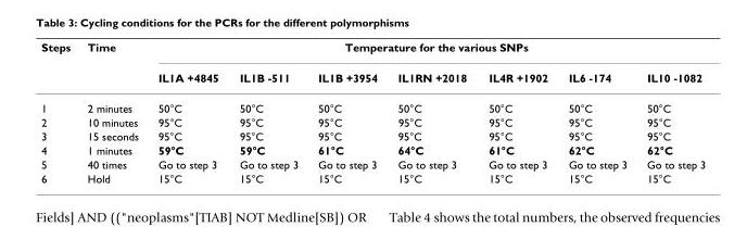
<table><thead><tr><td rowspan="2">Steps</td><td rowspan="2">Time</td><td colspan="7">Temperature for the various SNPs</td></tr><tr><td>IL1A +4845</td><td>IL1B -511</td><td>IL1B +3954</td><td>IL1RN +2018</td><td>IL4R +1902</td><td>IL6 -174</td><td>IL10 -1082</td></tr></thead><tbody><tr><td>1</td><td>2 minutes</td><td>50°C</td><td>50°C</td><td>50°C</td><td>50°C</td><td>50°C</td><td>50°C</td><td>50°C</td></tr><tr><td>2</td><td>10 minutes</td><td>95°C</td><td>95°C</td><td>95°C</td><td>95°C</td><td>95°C</td><td>95°C</td><td>95°C</td></tr><tr><td>3</td><td>15 seconds</td><td>95°C</td><td>95°C</td><td>95°C</td><td>95°C</td><td>95°C</td><td>95°C</td><td>95°C</td></tr><tr><td>4</td><td>1 minutes</td><td>59°C</td><td>59°C</td><td>61°C</td><td>64°C</td><td>61°C</td><td>62°C</td><td>62°C</td></tr><tr><td>5</td><td>40 times</td><td>Go to step 3</td><td>Go to step 3</td><td>Go to step 3</td><td>Go to step 3</td><td>Go to step 3</td><td>Go to step 3</td><td>Go to step 3</td></tr><tr><td>6</td><td>Hold</td><td>15°C</td><td>15°C</td><td>15°C</td><td>15°C</td><td>15°C</td><td>15°C</td><td>15°C</td></tr></tbody></table>